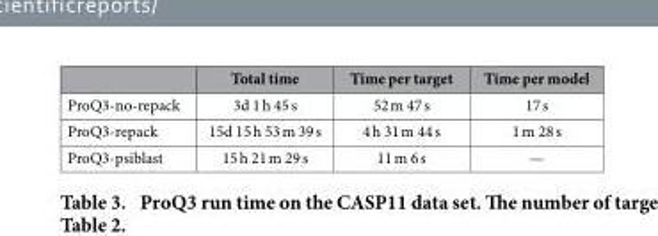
<table><thead><tr><td></td><td>Total time</td><td>Time per target</td><td>Time per model</td></tr></thead><tbody><tr><td>ProQ3-no-repack</td><td>3d 1 h 45 s</td><td>52 m 47 s</td><td>17 s</td></tr><tr><td>ProQ3-repack</td><td>15d 15 h 53 m 39 s</td><td>4 h 31 m 44 s</td><td>1 m 28 s</td></tr><tr><td>ProQ3-psiblast</td><td>15 h 21 m 29 s</td><td>11 m 6 s</td><td>—</td></tr></tbody></table>